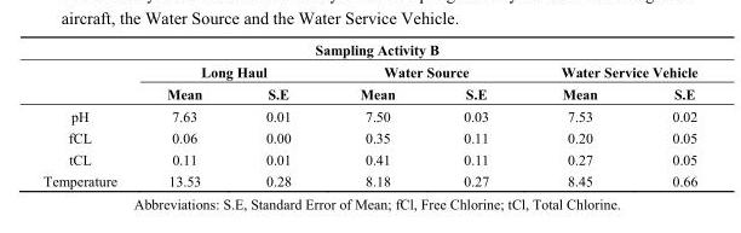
<table><thead><tr><td colspan="7">Sampling Activity B</td></tr><tr><td rowspan="2"></td><td colspan="2">Long Haul</td><td colspan="2">Water Source</td><td colspan="2">Water Service Vehicle</td></tr><tr><td>Mean</td><td>S.E</td><td>Mean</td><td>S.E</td><td>Mean</td><td>S.E</td></tr></thead><tbody><tr><td>pH</td><td>7.63</td><td>0.01</td><td>7.50</td><td>0.03</td><td>7.53</td><td>0.02</td></tr><tr><td>fCL</td><td>0.06</td><td>0.00</td><td>0.35</td><td>0.11</td><td>0.20</td><td>0.05</td></tr><tr><td>tCL</td><td>0.11</td><td>0.01</td><td>0.41</td><td>0.11</td><td>0.27</td><td>0.05</td></tr><tr><td>Temperature</td><td>13.53</td><td>0.28</td><td>8.18</td><td>0.27</td><td>8.45</td><td>0.66</td></tr></tbody></table>